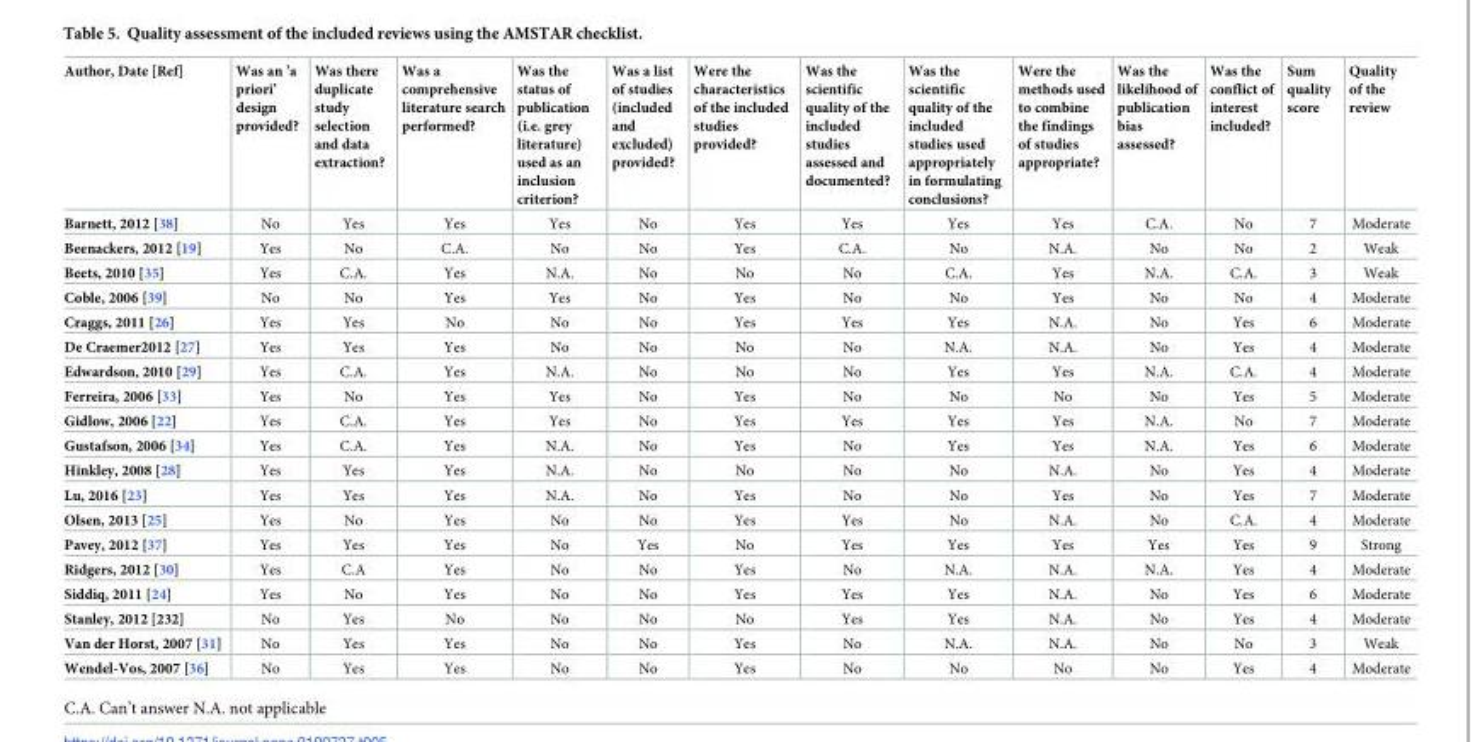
<table><thead><tr><td>Author, Date [Ref]</td><td>Was an ’a priori’ design provided?</td><td>Was there duplicate study selection and data extraction?</td><td>Was a comprehensive literature search performed?</td><td>Was the status of publication (i.e. grey literature) used as an inclusion criterion?</td><td>Was a list of studies (included and excluded) provided?</td><td>Were the characteristics of the included studies provided?</td><td>Was the scientific quality of the included studies assessed and documented?</td><td>Was the scientific quality of the included studies used appropriately in formulating conclusions?</td><td>Were the methods used to combine the findings of studies appropriate?</td><td>Was the likelihood of publication bias assessed?</td><td>Was the conflict of interest included?</td><td>Sum quality score</td><td>Quality of the review</td></tr></thead><tbody><tr><td>Barnett, 2012 [38]</td><td>No</td><td>Yes</td><td>Yes</td><td>Yes</td><td>No</td><td>Yes</td><td>Yes</td><td>Yes</td><td>Yes</td><td>C.A.</td><td>No</td><td>7</td><td>Moderate</td></tr><tr><td>Beenackers, 2012 [19]</td><td>Yes</td><td>No</td><td>C.A.</td><td>No</td><td>No</td><td>Yes</td><td>C.A.</td><td>No</td><td>N.A.</td><td>No</td><td>No</td><td>2</td><td>Weak</td></tr><tr><td>Beets, 2010 [35]</td><td>Yes</td><td>C.A.</td><td>Yes</td><td>N.A.</td><td>No</td><td>No</td><td>No</td><td>C.A.</td><td>Yes</td><td>N.A.</td><td>C.A.</td><td>3</td><td>Weak</td></tr><tr><td>Coble, 2006 [39]</td><td>No</td><td>No</td><td>Yes</td><td>Yes</td><td>No</td><td>Yes</td><td>No</td><td>No</td><td>Yes</td><td>No</td><td>No</td><td>4</td><td>Moderate</td></tr><tr><td>Craggs, 2011 [26]</td><td>Yes</td><td>Yes</td><td>No</td><td>No</td><td>No</td><td>Yes</td><td>Yes</td><td>Yes</td><td>N.A.</td><td>No</td><td>Yes</td><td>6</td><td>Moderate</td></tr><tr><td>De Craemer2012 [27]</td><td>Yes</td><td>Yes</td><td>Yes</td><td>No</td><td>No</td><td>No</td><td>No</td><td>N.A.</td><td>N.A.</td><td>No</td><td>Yes</td><td>4</td><td>Moderate</td></tr><tr><td>Edwardson, 2010 [29]</td><td>Yes</td><td>C.A.</td><td>Yes</td><td>N.A.</td><td>No</td><td>No</td><td>No</td><td>Yes</td><td>Yes</td><td>N.A.</td><td>C.A.</td><td>4</td><td>Moderate</td></tr><tr><td>Ferreira, 2006 [33]</td><td>Yes</td><td>No</td><td>Yes</td><td>Yes</td><td>No</td><td>Yes</td><td>No</td><td>No</td><td>No</td><td>No</td><td>Yes</td><td>5</td><td>Moderate</td></tr><tr><td>Gidlow, 2006 [22]</td><td>Yes</td><td>C.A.</td><td>Yes</td><td>Yes</td><td>No</td><td>Yes</td><td>Yes</td><td>Yes</td><td>Yes</td><td>N.A.</td><td>No</td><td>7</td><td>Moderate</td></tr><tr><td>Gustafson, 2006 [34]</td><td>Yes</td><td>C.A.</td><td>Yes</td><td>N.A.</td><td>No</td><td>Yes</td><td>No</td><td>Yes</td><td>Yes</td><td>N.A.</td><td>Yes</td><td>6</td><td>Moderate</td></tr><tr><td>Hinkley, 2008 [28]</td><td>Yes</td><td>Yes</td><td>Yes</td><td>N.A.</td><td>No</td><td>No</td><td>No</td><td>No</td><td>N.A.</td><td>No</td><td>Yes</td><td>4</td><td>Moderate</td></tr><tr><td>Lu, 2016 [23]</td><td>Yes</td><td>Yes</td><td>Yes</td><td>N.A.</td><td>No</td><td>Yes</td><td>No</td><td>No</td><td>Yes</td><td>No</td><td>Yes</td><td>7</td><td>Moderate</td></tr><tr><td>Olsen, 2013 [25]</td><td>Yes</td><td>No</td><td>Yes</td><td>No</td><td>No</td><td>Yes</td><td>Yes</td><td>No</td><td>N.A.</td><td>No</td><td>C.A.</td><td>4</td><td>Moderate</td></tr><tr><td>Pavey, 2012 [37]</td><td>Yes</td><td>Yes</td><td>Yes</td><td>No</td><td>Yes</td><td>No</td><td>Yes</td><td>Yes</td><td>Yes</td><td>Yes</td><td>Yes</td><td>9</td><td>Strong</td></tr><tr><td>Ridgers, 2012 [30]</td><td>Yes</td><td>C.A</td><td>Yes</td><td>No</td><td>No</td><td>Yes</td><td>No</td><td>N.A.</td><td>N.A.</td><td>N.A.</td><td>Yes</td><td>4</td><td>Moderate</td></tr><tr><td>Siddiq, 2011 [24]</td><td>Yes</td><td>No</td><td>Yes</td><td>No</td><td>No</td><td>Yes</td><td>Yes</td><td>Yes</td><td>N.A.</td><td>No</td><td>Yes</td><td>6</td><td>Moderate</td></tr><tr><td>Stanley, 2012 [232]</td><td>No</td><td>Yes</td><td>No</td><td>No</td><td>No</td><td>No</td><td>Yes</td><td>Yes</td><td>N.A.</td><td>No</td><td>Yes</td><td>4</td><td>Moderate</td></tr><tr><td>Van der Horst, 2007 [31]</td><td>No</td><td>Yes</td><td>Yes</td><td>No</td><td>No</td><td>Yes</td><td>No</td><td>N.A.</td><td>N.A.</td><td>No</td><td>No</td><td>3</td><td>Weak</td></tr><tr><td>Wendel-Vos, 2007 [36]</td><td>No</td><td>Yes</td><td>Yes</td><td>No</td><td>No</td><td>Yes</td><td>No</td><td>No</td><td>No</td><td>No</td><td>Yes</td><td>4</td><td>Moderate</td></tr></tbody></table>